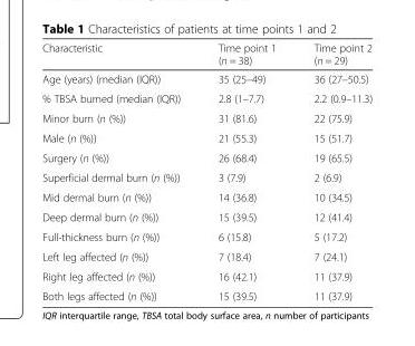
<table><thead><tr><td>Characteristic</td><td>Time point 1 (n = 38)</td><td>Time point 2 (n = 29)</td></tr></thead><tbody><tr><td>Age (years) (median (IQR))</td><td>35 (25–49)</td><td>36 (27–50.5)</td></tr><tr><td>% TBSA burned (median (IQR))</td><td>2.8 (1–7.7)</td><td>2.2 (0.9–11.3)</td></tr><tr><td>Minor burn (n (%))</td><td>31 (81.6)</td><td>22 (75.9)</td></tr><tr><td>Male (n (%))</td><td>21 (55.3)</td><td>15 (51.7)</td></tr><tr><td>Surgery (n (%))</td><td>26 (68.4)</td><td>19 (65.5)</td></tr><tr><td>Superficial dermal burn (n (%))</td><td>3 (7.9)</td><td>2 (6.9)</td></tr><tr><td>Mid dermal burn (n (%))</td><td>14 (36.8)</td><td>10 (34.5)</td></tr><tr><td>Deep dermal burn (n (%))</td><td>15 (39.5)</td><td>12 (41.4)</td></tr><tr><td>Full-thickness burn (n (%))</td><td>6 (15.8)</td><td>5 (17.2)</td></tr><tr><td>Left leg affected (n (%))</td><td>7 (18.4)</td><td>7 (24.1)</td></tr><tr><td>Right leg affected (n (%))</td><td>16 (42.1)</td><td>11 (37.9)</td></tr><tr><td>Both legs affected (n (%))</td><td>15 (39.5)</td><td>11 (37.9)</td></tr></tbody></table>